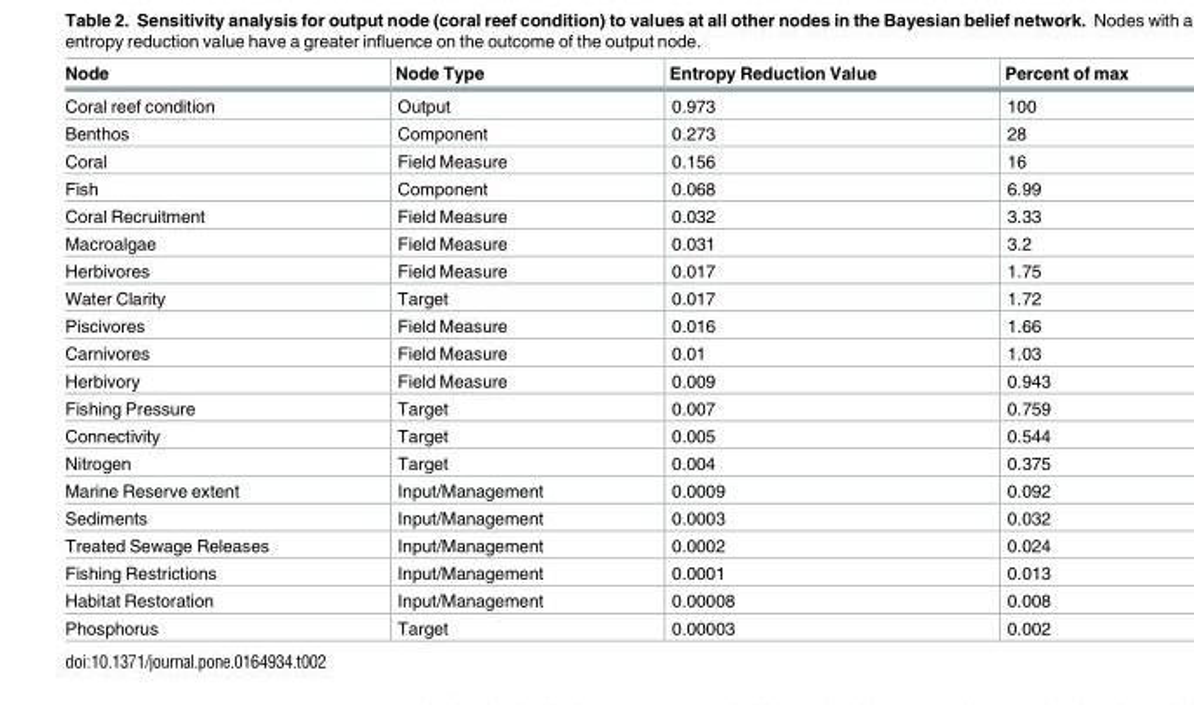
<table><thead><tr><td>Node</td><td>Node Type</td><td>Entropy Reduction Value</td><td>Percent of max</td></tr></thead><tbody><tr><td>Coral reef condition</td><td>Output</td><td>0.973</td><td>100</td></tr><tr><td>Benthos</td><td>Component</td><td>0.273</td><td>28</td></tr><tr><td>Coral</td><td>Field Measure</td><td>0.156</td><td>16</td></tr><tr><td>Fish</td><td>Component</td><td>0.068</td><td>6.99</td></tr><tr><td>Coral Recruitment</td><td>Field Measure</td><td>0.032</td><td>3.33</td></tr><tr><td>Macroalgae</td><td>Field Measure</td><td>0.031</td><td>3.2</td></tr><tr><td>Herbivores</td><td>Field Measure</td><td>0.017</td><td>1.75</td></tr><tr><td>Water Clarity</td><td>Target</td><td>0.017</td><td>1.72</td></tr><tr><td>Piscivores</td><td>Field Measure</td><td>0.016</td><td>1.66</td></tr><tr><td>Carnivores</td><td>Field Measure</td><td>0.01</td><td>1.03</td></tr><tr><td>Herbivory</td><td>Field Measure</td><td>0.009</td><td>0.943</td></tr><tr><td>Fishing Pressure</td><td>Target</td><td>0.007</td><td>0.759</td></tr><tr><td>Connectivity</td><td>Target</td><td>0.005</td><td>0.544</td></tr><tr><td>Nitrogen</td><td>Target</td><td>0.004</td><td>0.375</td></tr><tr><td>Marine Reserve extent</td><td>Input/Management</td><td>0.0009</td><td>0.092</td></tr><tr><td>Sediments</td><td>Input/Management</td><td>0.0003</td><td>0.032</td></tr><tr><td>Treated Sewage Releases</td><td>Input/Management</td><td>0.0002</td><td>0.024</td></tr><tr><td>Fishing Restrictions</td><td>Input/Management</td><td>0.0001</td><td>0.013</td></tr><tr><td>Habitat Restoration</td><td>Input/Management</td><td>0.00008</td><td>0.008</td></tr><tr><td>Phosphorus</td><td>Target</td><td>0.00003</td><td>0.002</td></tr></tbody></table>